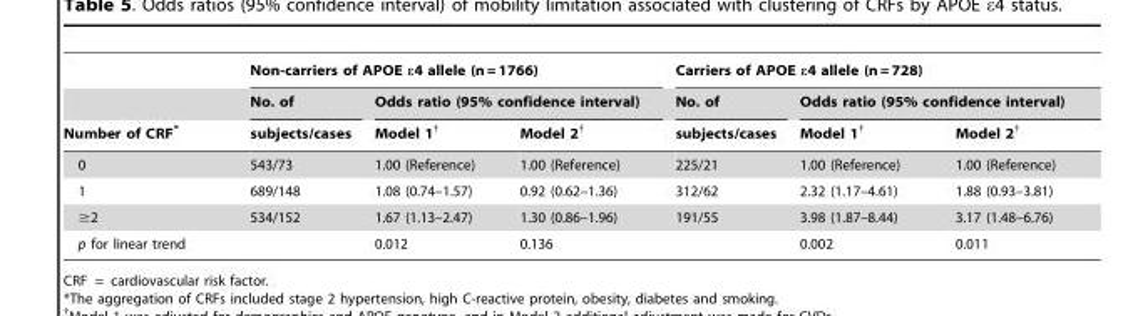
<table><thead><tr><td rowspan="3">Number of CRF*</td><td colspan="3">Non-carriers of APOE ε4 allele (n = 1766)</td><td colspan="3">Carriers of APOE ε4 allele (n = 728)</td></tr><tr><td rowspan="2">No. of subjects/cases</td><td colspan="2">Odds ratio (95% confidence interval)</td><td rowspan="2">No. of subjects/cases</td><td colspan="2">Odds ratio (95% confidence interval)</td></tr><tr><td>Model 1†</td><td>Model 2†</td><td>Model 1†</td><td>Model 2†</td></tr></thead><tbody><tr><td>0</td><td>543/73</td><td>1.00 (Reference)</td><td>1.00 (Reference)</td><td>225/21</td><td>1.00 (Reference)</td><td>1.00 (Reference)</td></tr><tr><td>1</td><td>689/148</td><td>1.08 (0.74–1.57)</td><td>0.92 (0.62–1.36)</td><td>312/62</td><td>2.32 (1.17–4.61)</td><td>1.88 (0.93–3.81)</td></tr><tr><td>≥2</td><td>534/152</td><td>1.67 (1.13–2.47)</td><td>1.30 (0.86–1.96)</td><td>191/55</td><td>3.98 (1.87–8.44)</td><td>3.17 (1.48–6.76)</td></tr><tr><td>p for linear trend</td><td></td><td>0.012</td><td>0.136</td><td></td><td>0.002</td><td>0.011</td></tr></tbody></table>